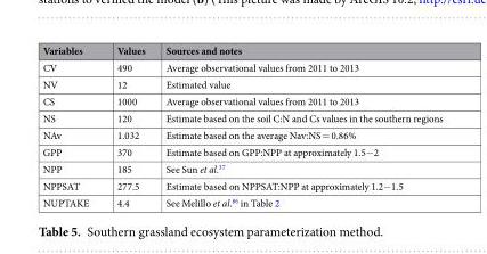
<table><thead><tr><td>Variables</td><td>Values</td><td>Sources and notes</td></tr></thead><tbody><tr><td>CV</td><td>490</td><td>Average observational values from 2011 to 2013</td></tr><tr><td>NV</td><td>12</td><td>Estimated value</td></tr><tr><td>CS</td><td>1000</td><td>Average observational values from 2011 to 2013</td></tr><tr><td>NS</td><td>120</td><td>Estimate based on the soil C:N and Cs values in the southern regions</td></tr><tr><td>NAv</td><td>1.032</td><td>Estimate based on the average Nav:NS = 0.86%</td></tr><tr><td>GPP</td><td>370</td><td>Estimate based on GPP:NPP at approximately 1.5−2</td></tr><tr><td>NPP</td><td>185</td><td>See Sun et al.<sup>37</sup></td></tr><tr><td>NPPSAT</td><td>277.5</td><td>Estimate based on NPPSAT:NPP at approximately 1.2−1.5</td></tr><tr><td>NUPTAKE</td><td>4.4</td><td>See Melillo et al.<sup>86</sup> in Table 2</td></tr></tbody></table>